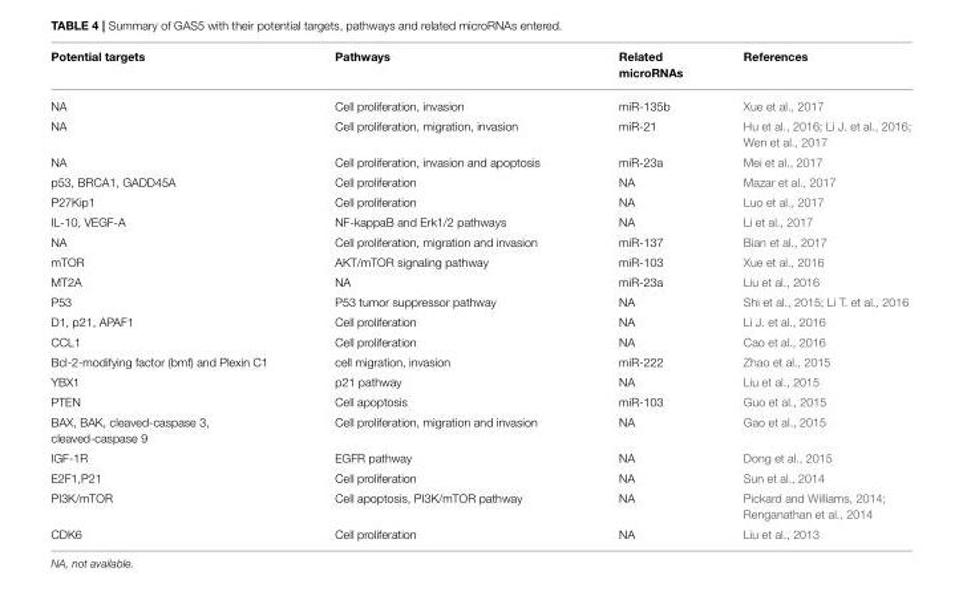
<table><thead><tr><td>Potential targets</td><td>Pathways</td><td>Related microRNAs</td><td>References</td></tr></thead><tbody><tr><td>NA</td><td>Cell proliferation, invasion</td><td>miR-135b</td><td>Xue et al., 2017</td></tr><tr><td>NA</td><td>Cell proliferation, migration, invasion</td><td>miR-21</td><td>Hu et al., 2016; Li J. et al., 2016; Wen et al., 2017</td></tr><tr><td>NA</td><td>Cell proliferation, invasion and apoptosis</td><td>miR-23a</td><td>Mei et al., 2017</td></tr><tr><td>p53, BRCA1, GADD45A</td><td>Cell proliferation</td><td>NA</td><td>Mazar et al., 2017</td></tr><tr><td>P27Kip1</td><td>Cell proliferation</td><td>NA</td><td>Luo et al., 2017</td></tr><tr><td>IL-10, VEGF-A</td><td>NF-kappaB and Erk1/2 pathways</td><td>NA</td><td>Li et al., 2017</td></tr><tr><td>NA</td><td>Cell proliferation, migration and invasion</td><td>miR-137</td><td>Bian et al., 2017</td></tr><tr><td>mTOR</td><td>AKT/mTOR signaling pathway</td><td>miR-103</td><td>Xue et al., 2016</td></tr><tr><td>MT2A</td><td>NA</td><td>miR-23a</td><td>Liu et al., 2016</td></tr><tr><td>P53</td><td>P53 tumor suppressor pathway</td><td>NA</td><td>Shi et al., 2015; Li T. et al., 2016</td></tr><tr><td>D1, p21, APAF1</td><td>Cell proliferation</td><td>NA</td><td>Li J. et al., 2016</td></tr><tr><td>CCL1</td><td>Cell proliferation</td><td>NA</td><td>Cao et al., 2016</td></tr><tr><td>Bcl-2-modifying factor (bmf) and Plexin C1</td><td>cell migration, invasion</td><td>miR-222</td><td>Zhao et al., 2015</td></tr><tr><td>YBX1</td><td>p21 pathway</td><td>NA</td><td>Liu et al., 2015</td></tr><tr><td>PTEN</td><td>Cell apoptosis</td><td>miR-103</td><td>Guo et al., 2015</td></tr><tr><td>BAX, BAK, cleaved-caspase 3, cleaved-caspase 9</td><td>Cell proliferation, migration and invasion</td><td>NA</td><td>Gao et al., 2015</td></tr><tr><td>IGF-1R</td><td>EGFR pathway</td><td>NA</td><td>Dong et al., 2015</td></tr><tr><td>E2F1,P21</td><td>Cell proliferation</td><td>NA</td><td>Sun et al., 2014</td></tr><tr><td>PI3K/mTOR</td><td>Cell apoptosis, PI3K/mTOR pathway</td><td>NA</td><td>Pickard and Williams, 2014; Renganathan et al., 2014</td></tr><tr><td>CDK6</td><td>Cell proliferation</td><td>NA</td><td>Liu et al., 2013</td></tr></tbody></table>